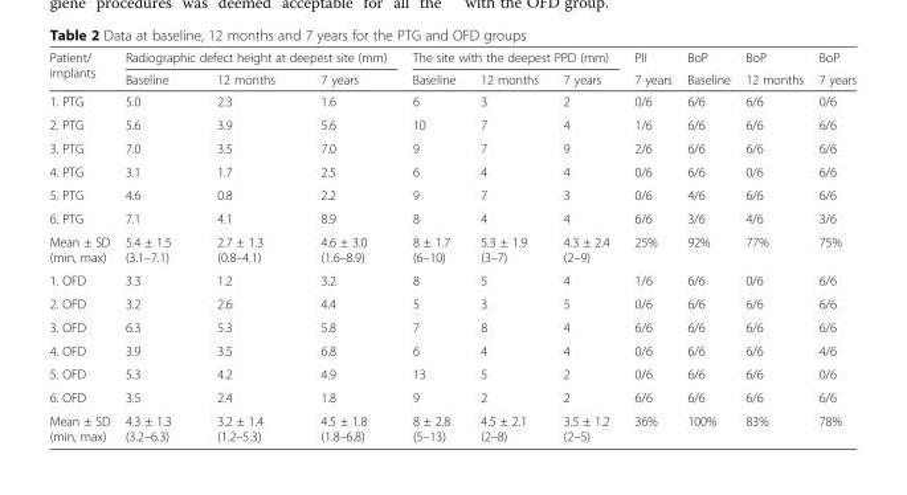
<table><thead><tr><td rowspan="2">Patient/ implants</td><td colspan="3">Radiographic defect height at deepest site (mm)</td><td colspan="3">The site with the deepest PPD (mm)</td><td rowspan="2">PlI 7 years</td><td rowspan="2">BoP Baseline</td><td rowspan="2">BoP 12 months</td><td rowspan="2">BoP 7 years</td></tr><tr><td>Baseline</td><td>12 months</td><td>7 years</td><td>Baseline</td><td>12 months</td><td>7 years</td></tr></thead><tbody><tr><td>1. PTG</td><td>5.0</td><td>2.3</td><td>1.6</td><td>6</td><td>3</td><td>2</td><td>0/6</td><td>6/6</td><td>6/6</td><td>0/6</td></tr><tr><td>2. PTG</td><td>5.6</td><td>3.9</td><td>5.6</td><td>10</td><td>7</td><td>4</td><td>1/6</td><td>6/6</td><td>6/6</td><td>6/6</td></tr><tr><td>3. PTG</td><td>7.0</td><td>3.5</td><td>7.0</td><td>9</td><td>7</td><td>9</td><td>2/6</td><td>6/6</td><td>6/6</td><td>6/6</td></tr><tr><td>4. PTG</td><td>3.1</td><td>1.7</td><td>2.5</td><td>6</td><td>4</td><td>4</td><td>0/6</td><td>6/6</td><td>0/6</td><td>6/6</td></tr><tr><td>5. PTG</td><td>4.6</td><td>0.8</td><td>2.2</td><td>9</td><td>7</td><td>3</td><td>0/6</td><td>4/6</td><td>6/6</td><td>6/6</td></tr><tr><td>6. PTG</td><td>7.1</td><td>4.1</td><td>8.9</td><td>8</td><td>4</td><td>4</td><td>6/6</td><td>3/6</td><td>4/6</td><td>3/6</td></tr><tr><td>Mean ± SD (min, max)</td><td>5.4 ± 1.5 (3.1–7.1)</td><td>2.7 ± 1.3 (0.8–4.1)</td><td>4.6 ± 3.0 (1.6–8.9)</td><td>8 ± 1.7 (6–10)</td><td>5.3 ± 1.9 (3–7)</td><td>4.3 ± 2.4 (2–9)</td><td>25%</td><td>92%</td><td>77%</td><td>75%</td></tr><tr><td>1. OFD</td><td>3.3</td><td>1.2</td><td>3.2</td><td>8</td><td>5</td><td>4</td><td>1/6</td><td>6/6</td><td>0/6</td><td>6/6</td></tr><tr><td>2. OFD</td><td>3.2</td><td>2.6</td><td>4.4</td><td>5</td><td>3</td><td>5</td><td>0/6</td><td>6/6</td><td>6/6</td><td>6/6</td></tr><tr><td>3. OFD</td><td>6.3</td><td>5.3</td><td>5.8</td><td>7</td><td>8</td><td>4</td><td>6/6</td><td>6/6</td><td>6/6</td><td>6/6</td></tr><tr><td>4. OFD</td><td>3.9</td><td>3.5</td><td>6.8</td><td>6</td><td>4</td><td>4</td><td>0/6</td><td>6/6</td><td>6/6</td><td>4/6</td></tr><tr><td>5. OFD</td><td>5.3</td><td>4.2</td><td>4.9</td><td>13</td><td>5</td><td>2</td><td>0/6</td><td>6/6</td><td>6/6</td><td>0/6</td></tr><tr><td>6. OFD</td><td>3.5</td><td>2.4</td><td>1.8</td><td>9</td><td>2</td><td>2</td><td>6/6</td><td>6/6</td><td>6/6</td><td>6/6</td></tr><tr><td>Mean ± SD (min, max)</td><td>4.3 ± 1.3 (3.2–6.3)</td><td>3.2 ± 1.4 (1.2–5.3)</td><td>4.5 ± 1.8 (1.8–6.8)</td><td>8 ± 2.8 (5–13)</td><td>4.5 ± 2.1 (2–8)</td><td>3.5 ± 1.2 (2–5)</td><td>36%</td><td>100%</td><td>83%</td><td>78%</td></tr></tbody></table>